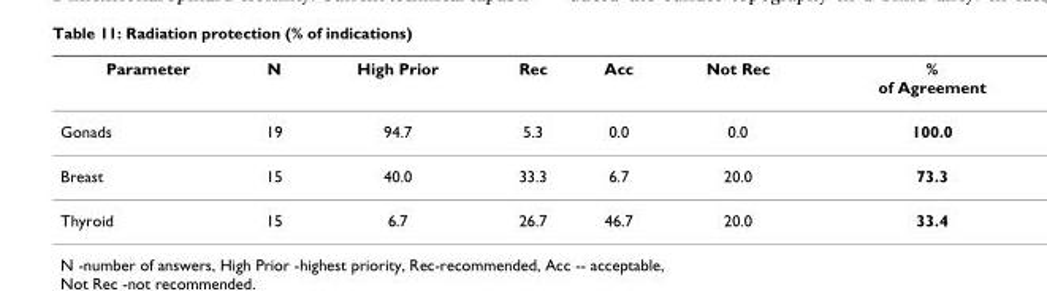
<table><thead><tr><td>Parameter</td><td>N</td><td>High Prior</td><td>Rec</td><td>Acc</td><td>Not Rec</td><td>% of Agreement</td></tr></thead><tbody><tr><td>Gonads</td><td>19</td><td>94.7</td><td>5.3</td><td>0.0</td><td>0.0</td><td>100.0</td></tr><tr><td>Breast</td><td>15</td><td>40.0</td><td>33.3</td><td>6.7</td><td>20.0</td><td>73.3</td></tr><tr><td>Thyroid</td><td>15</td><td>6.7</td><td>26.7</td><td>46.7</td><td>20.0</td><td>33.4</td></tr></tbody></table>